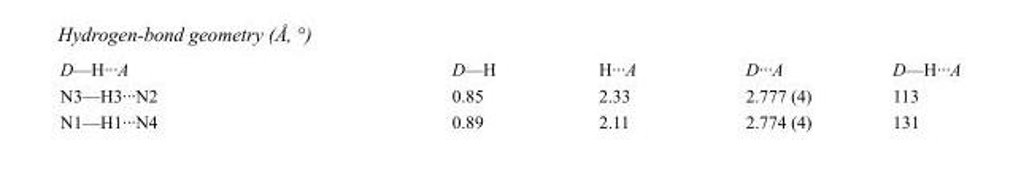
<table><tbody><tr><td>D—H···A</td><td>D—H</td><td>H···A</td><td>D···A</td><td>D—H···A</td></tr><tr><td>N3—H3···N2</td><td>0.85</td><td>2.33</td><td>2.777 (4)</td><td>113</td></tr><tr><td>N1—H1···N4</td><td>0.89</td><td>2.11</td><td>2.774 (4)</td><td>131</td></tr></tbody></table>